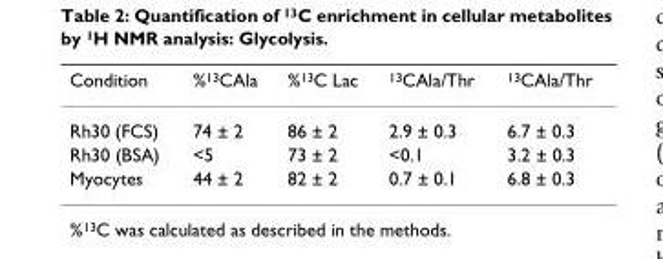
<table><thead><tr><td>Condition</td><td>%<sup>13</sup>CAla</td><td>%<sup>13</sup>C Lac</td><td><sup>13</sup>CAla/Thr</td><td><sup>13</sup>CAla/Thr</td></tr></thead><tbody><tr><td>Rh30 (FCS)</td><td>74 ± 2</td><td>86 ± 2</td><td>2.9 ± 0.3</td><td>6.7 ± 0.3</td></tr><tr><td>Rh30 (BSA)</td><td>&lt;5</td><td>73 ± 2</td><td>&lt;0.1</td><td>3.2 ± 0.3</td></tr><tr><td>Myocytes</td><td>44 ± 2</td><td>82 ± 2</td><td>0.7 ± 0.1</td><td>6.8 ± 0.3</td></tr></tbody></table>